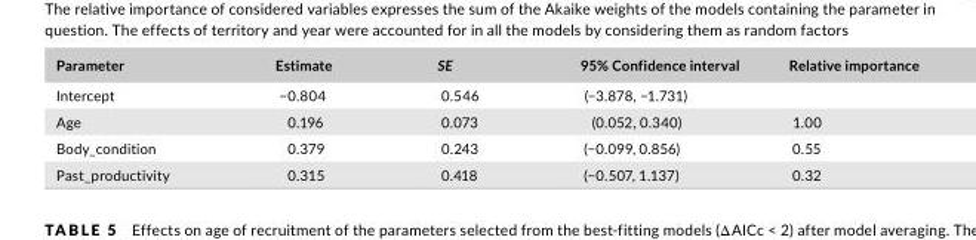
<table><thead><tr><td>Parameter</td><td>Estimate</td><td>SE</td><td>95% Confidence interval</td><td>Relative importance</td></tr></thead><tbody><tr><td>Intercept</td><td>−0.804</td><td>0.546</td><td>(−3.878, −1.731)</td><td></td></tr><tr><td>Age</td><td>0.196</td><td>0.073</td><td>(0.052, 0.340)</td><td>1.00</td></tr><tr><td>Body_condition</td><td>0.379</td><td>0.243</td><td>(−0.099, 0.856)</td><td>0.55</td></tr><tr><td>Past_productivity</td><td>0.315</td><td>0.418</td><td>(−0.507, 1.137)</td><td>0.32</td></tr></tbody></table>